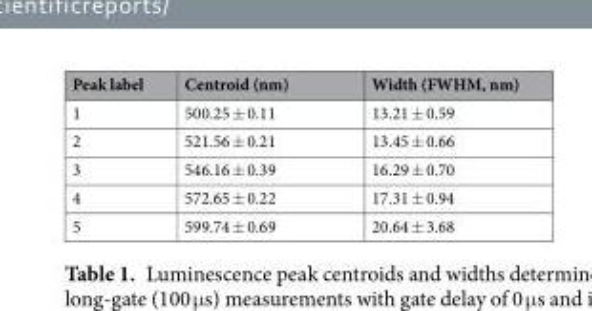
<table><thead><tr><td>Peak label</td><td>Centroid (nm)</td><td>Width (FWHM, nm)</td></tr></thead><tbody><tr><td>1</td><td>500.25 ± 0.11</td><td>13.21 ± 0.59</td></tr><tr><td>2</td><td>521.56 ± 0.21</td><td>13.45 ± 0.66</td></tr><tr><td>3</td><td>546.16 ± 0.39</td><td>16.29 ± 0.70</td></tr><tr><td>4</td><td>572.65 ± 0.22</td><td>17.31 ± 0.94</td></tr><tr><td>5</td><td>599.74 ± 0.69</td><td>20.64 ± 3.68</td></tr></tbody></table>